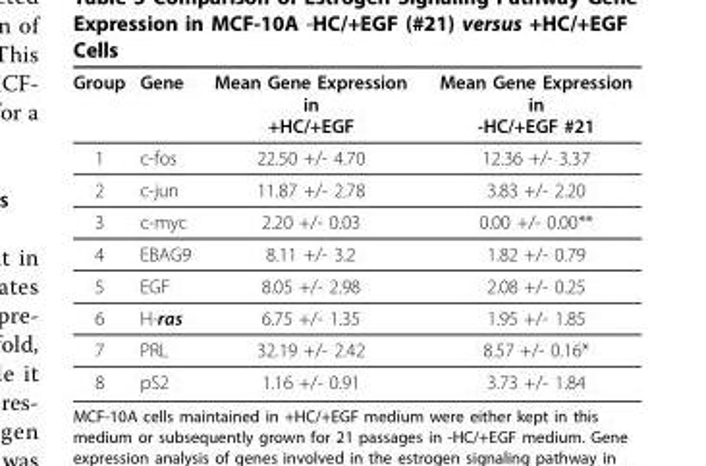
<table><thead><tr><td>Group</td><td>Gene</td><td>Mean Gene Expression in +HC/+EGF</td><td>Mean Gene Expression in -HC/+EGF #21</td></tr></thead><tbody><tr><td>1</td><td>c-fos</td><td>22.50 +/- 4.70</td><td>12.36 +/- 3.37</td></tr><tr><td>2</td><td>c-jun</td><td>11.87 +/- 2.78</td><td>3.83 +/- 2.20</td></tr><tr><td>3</td><td>c-myc</td><td>2.20 +/- 0.03</td><td>0.00 +/- 0.00**</td></tr><tr><td>4</td><td>EBAG9</td><td>8.11 +/- 3.2</td><td>1.82 +/- 0.79</td></tr><tr><td>5</td><td>EGF</td><td>8.05 +/- 2.98</td><td>2.08 +/- 0.25</td></tr><tr><td>6</td><td>H-ras</td><td>6.75 +/- 1.35</td><td>1.95 +/- 1.85</td></tr><tr><td>7</td><td>PRL</td><td>32.19 +/- 2.42</td><td>8.57 +/- 0.16*</td></tr><tr><td>8</td><td>pS2</td><td>1.16 +/- 0.91</td><td>3.73 +/- 1.84</td></tr></tbody></table>